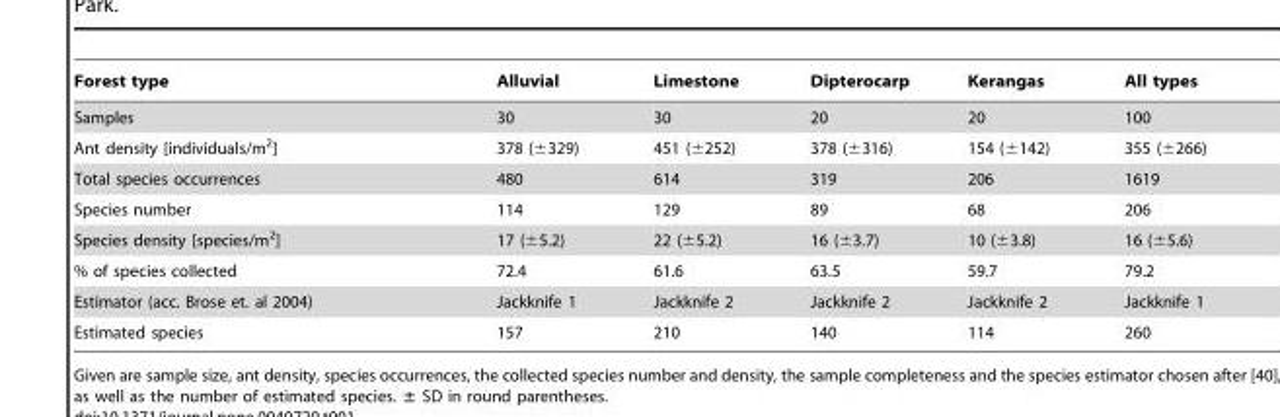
<table><thead><tr><td>Forest type</td><td>Alluvial</td><td>Limestone</td><td>Dipterocarp</td><td>Kerangas</td><td>All types</td></tr></thead><tbody><tr><td>Samples</td><td>30</td><td>30</td><td>20</td><td>20</td><td>100</td></tr><tr><td>Ant density [individuals/m<sup>2</sup>]</td><td>378 (±329)</td><td>451 (±252)</td><td>378 (±316)</td><td>154 (±142)</td><td>355 (±266)</td></tr><tr><td>Total species occurrences</td><td>480</td><td>614</td><td>319</td><td>206</td><td>1619</td></tr><tr><td>Species number</td><td>114</td><td>129</td><td>89</td><td>68</td><td>206</td></tr><tr><td>Species density [species/m<sup>2</sup>]</td><td>17 (±5.2)</td><td>22 (±5.2)</td><td>16 (±3.7)</td><td>10 (±3.8)</td><td>16 (±5.6)</td></tr><tr><td>% of species collected</td><td>72.4</td><td>61.6</td><td>63.5</td><td>59.7</td><td>79.2</td></tr><tr><td>Estimator (acc. Brose et. al 2004)</td><td>Jackknife 1</td><td>Jackknife 2</td><td>Jackknife 2</td><td>Jackknife 2</td><td>Jackknife 1</td></tr><tr><td>Estimated species</td><td>157</td><td>210</td><td>140</td><td>114</td><td>260</td></tr></tbody></table>